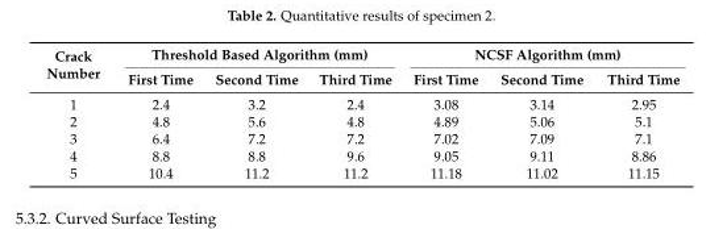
<table><thead><tr><td rowspan="2">Crack Number</td><td colspan="3">Threshold Based Algorithm (mm)</td><td colspan="3">NCSF Algorithm (mm)</td></tr><tr><td>First Time</td><td>Second Time</td><td>Third Time</td><td>First Time</td><td>Second Time</td><td>Third Time</td></tr></thead><tbody><tr><td>1</td><td>2.4</td><td>3.2</td><td>2.4</td><td>3.08</td><td>3.14</td><td>2.95</td></tr><tr><td>2</td><td>4.8</td><td>5.6</td><td>4.8</td><td>4.89</td><td>5.06</td><td>5.1</td></tr><tr><td>3</td><td>6.4</td><td>7.2</td><td>7.2</td><td>7.02</td><td>7.09</td><td>7.1</td></tr><tr><td>4</td><td>8.8</td><td>8.8</td><td>9.6</td><td>9.05</td><td>9.11</td><td>8.86</td></tr><tr><td>5</td><td>10.4</td><td>11.2</td><td>11.2</td><td>11.18</td><td>11.02</td><td>11.15</td></tr></tbody></table>